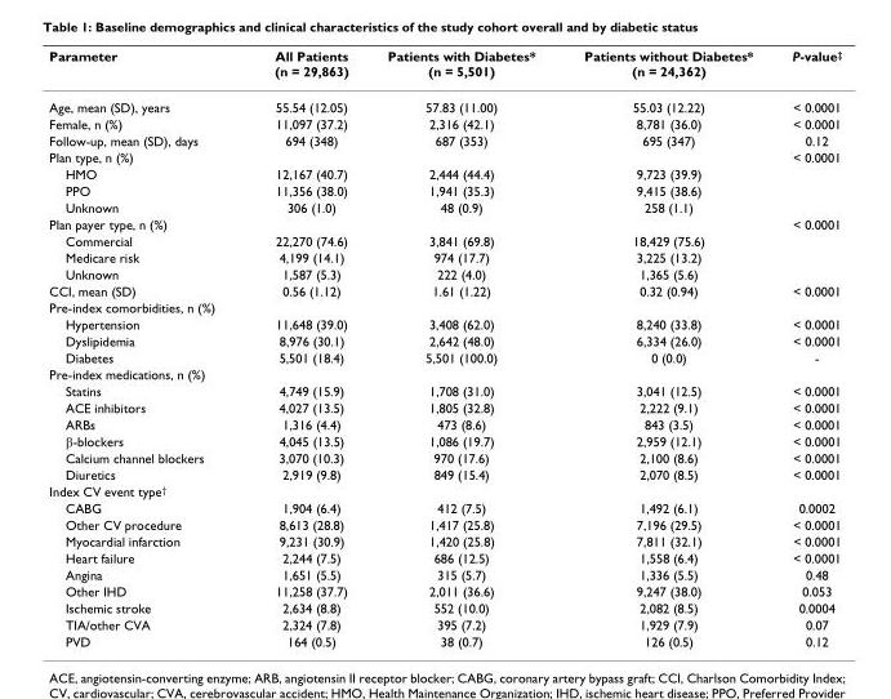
<table><thead><tr><td>Parameter</td><td>All Patients (n = 29,863)</td><td>Patients with Diabetes* (n = 5,501)</td><td>Patients without Diabetes* (n = 24,362)</td><td>P-value<sup>‡</sup></td></tr></thead><tbody><tr><td>Age, mean (SD), years</td><td>55.54 (12.05)</td><td>57.83 (11.00)</td><td>55.03 (12.22)</td><td>&lt; 0.0001</td></tr><tr><td>Female, n (%)</td><td>11,097 (37.2)</td><td>2,316 (42.1)</td><td>8,781 (36.0)</td><td>&lt; 0.0001</td></tr><tr><td>Follow-up, mean (SD), days</td><td>694 (348)</td><td>687 (353)</td><td>695 (347)</td><td>0.12</td></tr><tr><td>Plan type, n (%)</td><td></td><td></td><td></td><td>&lt; 0.0001</td></tr><tr><td>HMO</td><td>12,167 (40.7)</td><td>2,444 (44.4)</td><td>9,723 (39.9)</td><td></td></tr><tr><td>PPO</td><td>11,356 (38.0)</td><td>1,941 (35.3)</td><td>9,415 (38.6)</td><td></td></tr><tr><td>Unknown</td><td>306 (1.0)</td><td>48 (0.9)</td><td>258 (1.1)</td><td></td></tr><tr><td>Plan payer type, n (%)</td><td></td><td></td><td></td><td>&lt; 0.0001</td></tr><tr><td>Commercial</td><td>22,270 (74.6)</td><td>3,841 (69.8)</td><td>18,429 (75.6)</td><td></td></tr><tr><td>Medicare risk</td><td>4,199 (14.1)</td><td>974 (17.7)</td><td>3,225 (13.2)</td><td></td></tr><tr><td>Unknown</td><td>1,587 (5.3)</td><td>222 (4.0)</td><td>1,365 (5.6)</td><td></td></tr><tr><td>CCI, mean (SD)</td><td>0.56 (1.12)</td><td>1.61 (1.22)</td><td>0.32 (0.94)</td><td>&lt; 0.0001</td></tr><tr><td colspan="5">Pre-index comorbidities, n (%)</td></tr><tr><td>Hypertension</td><td>11,648 (39.0)</td><td>3,408 (62.0)</td><td>8,240 (33.8)</td><td>&lt; 0.0001</td></tr><tr><td>Dyslipidemia</td><td>8,976 (30.1)</td><td>2,642 (48.0)</td><td>6,334 (26.0)</td><td>&lt; 0.0001</td></tr><tr><td>Diabetes</td><td>5,501 (18.4)</td><td>5,501 (100.0)</td><td>0 (0.0)</td><td>-</td></tr><tr><td colspan="5">Pre-index medications, n (%)</td></tr><tr><td>Statins</td><td>4,749 (15.9)</td><td>1,708 (31.0)</td><td>3,041 (12.5)</td><td>&lt; 0.0001</td></tr><tr><td>ACE inhibitors</td><td>4,027 (13.5)</td><td>1,805 (32.8)</td><td>2,222 (9.1)</td><td>&lt; 0.0001</td></tr><tr><td>ARBs</td><td>1,316 (4.4)</td><td>473 (8.6)</td><td>843 (3.5)</td><td>&lt; 0.0001</td></tr><tr><td>β-blockers</td><td>4,045 (13.5)</td><td>1,086 (19.7)</td><td>2,959 (12.1)</td><td>&lt; 0.0001</td></tr><tr><td>Calcium channel blockers</td><td>3,070 (10.3)</td><td>970 (17.6)</td><td>2,100 (8.6)</td><td>&lt; 0.0001</td></tr><tr><td>Diuretics</td><td>2,919 (9.8)</td><td>849 (15.4)</td><td>2,070 (8.5)</td><td>&lt; 0.0001</td></tr><tr><td colspan="5">Index CV event type<sup>†</sup></td></tr><tr><td>CABG</td><td>1,904 (6.4)</td><td>412 (7.5)</td><td>1,492 (6.1)</td><td>0.0002</td></tr><tr><td>Other CV procedure</td><td>8,613 (28.8)</td><td>1,417 (25.8)</td><td>7,196 (29.5)</td><td>&lt; 0.0001</td></tr><tr><td>Myocardial infarction</td><td>9,231 (30.9)</td><td>1,420 (25.8)</td><td>7,811 (32.1)</td><td>&lt; 0.0001</td></tr><tr><td>Heart failure</td><td>2,244 (7.5)</td><td>686 (12.5)</td><td>1,558 (6.4)</td><td>&lt; 0.0001</td></tr><tr><td>Angina</td><td>1,651 (5.5)</td><td>315 (5.7)</td><td>1,336 (5.5)</td><td>0.48</td></tr><tr><td>Other IHD</td><td>11,258 (37.7)</td><td>2,011 (36.6)</td><td>9,247 (38.0)</td><td>0.053</td></tr><tr><td>Ischemic stroke</td><td>2,634 (8.8)</td><td>552 (10.0)</td><td>2,082 (8.5)</td><td>0.0004</td></tr><tr><td>TIA/other CVA</td><td>2,324 (7.8)</td><td>395 (7.2)</td><td>1,929 (7.9)</td><td>0.07</td></tr><tr><td>PVD</td><td>164 (0.5)</td><td>38 (0.7)</td><td>126 (0.5)</td><td>0.12</td></tr></tbody></table>